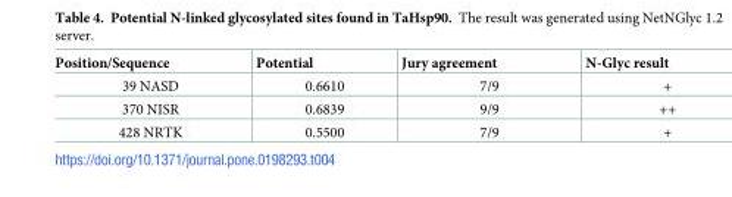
<table><thead><tr><td>Position/Sequence</td><td>Potential</td><td>Jury agreement</td><td>N-Glyc result</td></tr></thead><tbody><tr><td>39 NASD</td><td>0.6610</td><td>7/9</td><td>+</td></tr><tr><td>370 NISR</td><td>0.6839</td><td>9/9</td><td>++</td></tr><tr><td>428 NRTK</td><td>0.5500</td><td>7/9</td><td>+</td></tr></tbody></table>